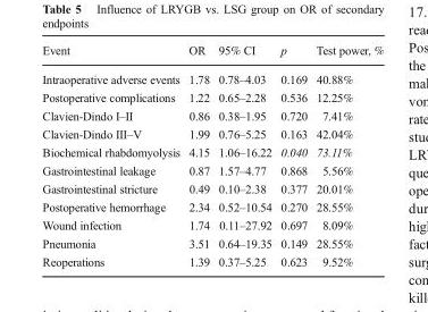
<table><thead><tr><td>Event</td><td>OR</td><td>95% CI</td><td>p</td><td>Test power, %</td></tr></thead><tbody><tr><td>Intraoperative adverse events</td><td>1.78</td><td>0.78–4.03</td><td>0.169</td><td>40.88%</td></tr><tr><td>Postoperative complications</td><td>1.22</td><td>0.65–2.28</td><td>0.536</td><td>12.25%</td></tr><tr><td>Clavien-Dindo I–II</td><td>0.86</td><td>0.38–1.95</td><td>0.720</td><td>7.41%</td></tr><tr><td>Clavien-Dindo III–V</td><td>1.99</td><td>0.76–5.25</td><td>0.163</td><td>42.04%</td></tr><tr><td>Biochemical rhabdomyolysis</td><td>4.15</td><td>1.06–16.22</td><td>0.040</td><td>73.11%</td></tr><tr><td>Gastrointestinal leakage</td><td>0.87</td><td>1.57–4.77</td><td>0.868</td><td>5.56%</td></tr><tr><td>Gastrointestinal stricture</td><td>0.49</td><td>0.10–2.38</td><td>0.377</td><td>20.01%</td></tr><tr><td>Postoperative hemorrhage</td><td>2.34</td><td>0.52–10.54</td><td>0.270</td><td>28.55%</td></tr><tr><td>Wound infection</td><td>1.74</td><td>0.11–27.92</td><td>0.697</td><td>8.09%</td></tr><tr><td>Pneumonia</td><td>3.51</td><td>0.64–19.35</td><td>0.149</td><td>28.55%</td></tr><tr><td>Reoperations</td><td>1.39</td><td>0.37–5.25</td><td>0.623</td><td>9.52%</td></tr></tbody></table>